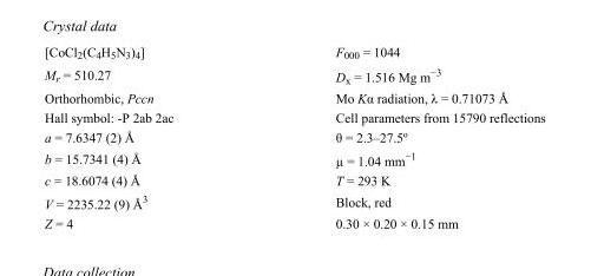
<table><tbody><tr><td>[CoCl<sub>2</sub>(C<sub>4</sub>H<sub>5</sub>N<sub>3</sub>)<sub>4</sub>]</td><td>F000 = 1044</td></tr><tr><td>M<sub>r</sub> = 510.27</td><td>D<sub>x</sub> = 1.516 Mg m<sup>−3</sup></td></tr><tr><td>Orthorhombic, Pccn</td><td>Mo Kα radiation, λ = 0.71073 Å</td></tr><tr><td>Hall symbol: -P 2ab 2ac</td><td>Cell parameters from 15790 reflections</td></tr><tr><td>a = 7.6347 (2) Å</td><td>θ = 2.3–27.5º</td></tr><tr><td>b = 15.7341 (4) Å</td><td>µ = 1.04 mm<sup>−1</sup></td></tr><tr><td>c = 18.6074 (4) Å</td><td>T = 293 K</td></tr><tr><td>V = 2235.22 (9) Å<sup>3</sup></td><td>Block, red</td></tr><tr><td>Z = 4</td><td>0.30 × 0.20 × 0.15 mm</td></tr></tbody></table>